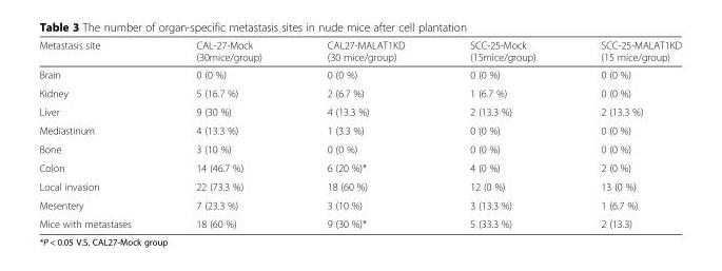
<table><thead><tr><td>Metastasis site</td><td>CAL-27-Mock (30mice/group)</td><td>CAL27-MALAT1KD (30 mice/group)</td><td>SCC-25-Mock (15mice/group)</td><td>SCC-25-MALAT1KD (15 mice/group)</td></tr></thead><tbody><tr><td>Brain</td><td>0 (0 %)</td><td>0 (0 %)</td><td>0 (0 %)</td><td>0 (0 %)</td></tr><tr><td>Kidney</td><td>5 (16.7 %)</td><td>2 (6.7 %)</td><td>1 (6.7 %)</td><td>0 (0 %)</td></tr><tr><td>Liver</td><td>9 (30 %)</td><td>4 (13.3 %)</td><td>2 (13.3 %)</td><td>2 (13.3 %)</td></tr><tr><td>Mediastinum</td><td>4 (13.3 %)</td><td>1 (3.3 %)</td><td>0 (0 %)</td><td>0 (0 %)</td></tr><tr><td>Bone</td><td>3 (10 %)</td><td>0 (0 %)</td><td>0 (0 %)</td><td>0 (0 %)</td></tr><tr><td>Colon</td><td>14 (46.7 %)</td><td>6 (20 %)*</td><td>4 (0 %)</td><td>2 (0 %)</td></tr><tr><td>Local invasion</td><td>22 (73.3 %)</td><td>18 (60 %)</td><td>12 (0 %)</td><td>13 (0 %)</td></tr><tr><td>Mesentery</td><td>7 (23.3 %)</td><td>3 (10 %)</td><td>3 (13.3 %)</td><td>1 (6.7 %)</td></tr><tr><td>Mice with metastases</td><td>18 (60 %)</td><td>9 (30 %)*</td><td>5 (33.3 %)</td><td>2 (13.3)</td></tr></tbody></table>